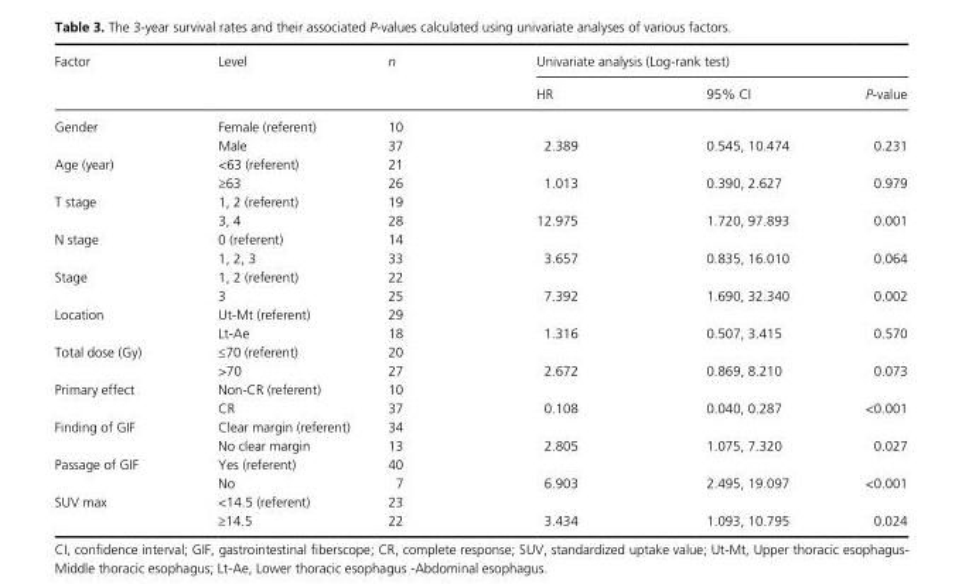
<table><thead><tr><td rowspan="2">Factor</td><td rowspan="2">Level</td><td rowspan="2">n</td><td colspan="3">Univariate analysis (Log- rank test)</td></tr><tr><td>HR</td><td>95% CI</td><td>P- value</td></tr></thead><tbody><tr><td rowspan="2">Gender</td><td>Female (referent)</td><td>10</td><td></td><td></td><td></td></tr><tr><td>Male</td><td>37</td><td>2.389</td><td>0.545, 10.474</td><td>0.231</td></tr><tr><td rowspan="2">Age (year)</td><td>&lt;63 (referent)</td><td>21</td><td></td><td></td><td></td></tr><tr><td>≥63</td><td>26</td><td>1.013</td><td>0.390, 2.627</td><td>0.979</td></tr><tr><td rowspan="2">T stage</td><td>1, 2 (referent)</td><td>19</td><td></td><td></td><td></td></tr><tr><td>3, 4</td><td>28</td><td>12.975</td><td>1.720, 97.893</td><td>0.001</td></tr><tr><td rowspan="2">N stage</td><td>0 (referent)</td><td>14</td><td></td><td></td><td></td></tr><tr><td>1, 2, 3</td><td>33</td><td>3.657</td><td>0.835, 16.010</td><td>0.064</td></tr><tr><td rowspan="2">Stage</td><td>1, 2 (referent)</td><td>22</td><td></td><td></td><td></td></tr><tr><td>3</td><td>25</td><td>7.392</td><td>1.690, 32.340</td><td>0.002</td></tr><tr><td rowspan="2">Location</td><td>Ut- Mt (referent)</td><td>29</td><td></td><td></td><td></td></tr><tr><td>Lt- Ae</td><td>18</td><td>1.316</td><td>0.507, 3.415</td><td>0.570</td></tr><tr><td rowspan="2">Total dose (Gy)</td><td>≤70 (referent)</td><td>20</td><td></td><td></td><td></td></tr><tr><td>&gt;70</td><td>27</td><td>2.672</td><td>0.869, 8.210</td><td>0.073</td></tr><tr><td rowspan="2">Primary effect</td><td>Non- CR (referent)</td><td>10</td><td></td><td></td><td></td></tr><tr><td>CR</td><td>37</td><td>0.108</td><td>0.040, 0.287</td><td>&lt;0.001</td></tr><tr><td rowspan="2">Finding of GIF</td><td>Clear margin (referent)</td><td>34</td><td></td><td></td><td></td></tr><tr><td>No clear margin</td><td>13</td><td>2.805</td><td>1.075, 7.320</td><td>0.027</td></tr><tr><td rowspan="2">Passage of GIF</td><td>Yes (referent)</td><td>40</td><td></td><td></td><td></td></tr><tr><td>No</td><td>7</td><td>6.903</td><td>2.495, 19.097</td><td>&lt;0.001</td></tr><tr><td rowspan="2">SUV max</td><td>&lt;14.5 (referent)</td><td>23</td><td></td><td></td><td></td></tr><tr><td>≥14.5</td><td>22</td><td>3.434</td><td>1.093, 10.795</td><td>0.024</td></tr></tbody></table>